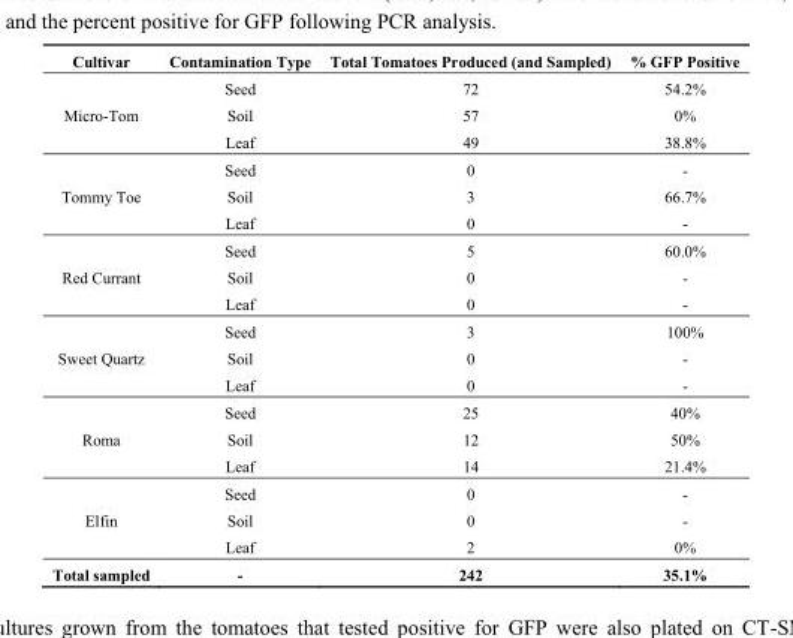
<table><thead><tr><td>Cultivar</td><td>Contamination Type</td><td>Total Tomatoes Produced (and Sampled)</td><td>% GFP Positive</td></tr></thead><tbody><tr><td rowspan="3">Micro-Tom</td><td>Seed</td><td>72</td><td>54.2%</td></tr><tr><td>Soil</td><td>57</td><td>0%</td></tr><tr><td>Leaf</td><td>49</td><td>38.8%</td></tr><tr><td rowspan="3">Tommy Toe</td><td>Seed</td><td>0</td><td>-</td></tr><tr><td>Soil</td><td>3</td><td>66.7%</td></tr><tr><td>Leaf</td><td>0</td><td>-</td></tr><tr><td rowspan="3">Red Currant</td><td>Seed</td><td>5</td><td>60.0%</td></tr><tr><td>Soil</td><td>0</td><td>-</td></tr><tr><td>Leaf</td><td>0</td><td>-</td></tr><tr><td rowspan="3">Sweet Quartz</td><td>Seed</td><td>3</td><td>100%</td></tr><tr><td>Soil</td><td>0</td><td>-</td></tr><tr><td>Leaf</td><td>0</td><td>-</td></tr><tr><td rowspan="3">Roma</td><td>Seed</td><td>25</td><td>40%</td></tr><tr><td>Soil</td><td>12</td><td>50%</td></tr><tr><td>Leaf</td><td>14</td><td>21.4%</td></tr><tr><td rowspan="3">Elfin</td><td>Seed</td><td>0</td><td>-</td></tr><tr><td>Soil</td><td>0</td><td>-</td></tr><tr><td>Leaf</td><td>2</td><td>0%</td></tr><tr><td>Total sampled</td><td>-</td><td>242</td><td>35.1%</td></tr></tbody></table>